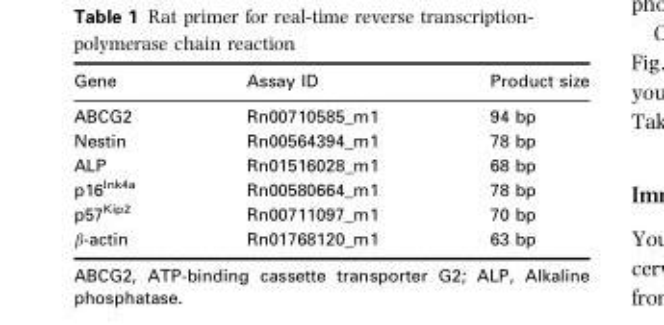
<table><thead><tr><td>Gene</td><td>Assay ID</td><td>Product size</td></tr></thead><tbody><tr><td>ABCG2</td><td>Rn00710585_m1</td><td>94 bp</td></tr><tr><td>Nestin</td><td>Rn00564394_m1</td><td>78 bp</td></tr><tr><td>ALP</td><td>Rn01516028_m1</td><td>68 bp</td></tr><tr><td>p16<sup>Ink4a</sup></td><td>Rn00580664_m1</td><td>78 bp</td></tr><tr><td>p57<sup>Kip2</sup></td><td>Rn00711097_m1</td><td>70 bp</td></tr><tr><td>β-actin</td><td>Rn01768120_m1</td><td>63 bp</td></tr></tbody></table>